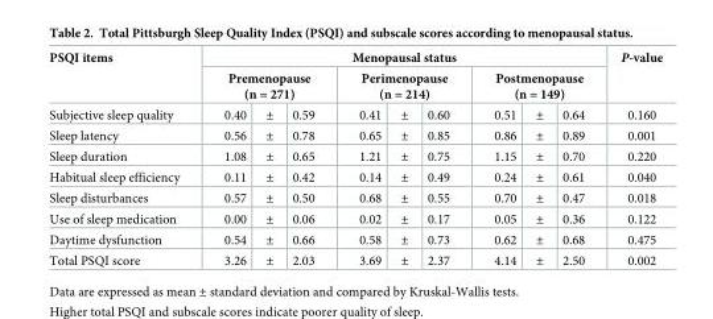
<table><thead><tr><td rowspan="3">PSQI items Subjective sleep quality</td><td colspan="9">Menopausal status</td><td rowspan="3">P-value 0.160</td></tr><tr><td colspan="3">Premenopause (n = 271)</td><td colspan="3">Perimenopause (n = 214)</td><td colspan="3">Postmenopause (n = 149)</td></tr><tr><td>0.40</td><td>±</td><td>0.59</td><td>0.41</td><td>±</td><td>0.60</td><td>0.51</td><td>±</td><td>0.64</td></tr></thead><tbody><tr><td>Sleep latency</td><td>0.56</td><td>±</td><td>0.78</td><td>0.65</td><td>±</td><td>0.85</td><td>0.86</td><td>±</td><td>0.89</td><td>0.001</td></tr><tr><td>Sleep duration</td><td>1.08</td><td>±</td><td>0.65</td><td>1.21</td><td>±</td><td>0.75</td><td>1.15</td><td>±</td><td>0.70</td><td>0.220</td></tr><tr><td>Habitual sleep efficiency</td><td>0.11</td><td>±</td><td>0.42</td><td>0.14</td><td>±</td><td>0.49</td><td>0.24</td><td>±</td><td>0.61</td><td>0.040</td></tr><tr><td>Sleep disturbances</td><td>0.57</td><td>±</td><td>0.50</td><td>0.68</td><td>±</td><td>0.55</td><td>0.70</td><td>±</td><td>0.47</td><td>0.018</td></tr><tr><td>Use of sleep medication</td><td>0.00</td><td>±</td><td>0.06</td><td>0.02</td><td>±</td><td>0.17</td><td>0.05</td><td>±</td><td>0.36</td><td>0.122</td></tr><tr><td>Daytime dysfunction</td><td>0.54</td><td>±</td><td>0.66</td><td>0.58</td><td>±</td><td>0.73</td><td>0.62</td><td>±</td><td>0.68</td><td>0.475</td></tr><tr><td>Total PSQI score</td><td>3.26</td><td>±</td><td>2.03</td><td>3.69</td><td>±</td><td>2.37</td><td>4.14</td><td>±</td><td>2.50</td><td>0.002</td></tr></tbody></table>